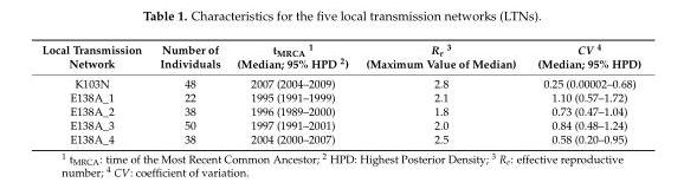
<table><thead><tr><td>Local Transmission Network</td><td>Number of Individuals</td><td>t<sub>MRCA</sub> <sup>1</sup> (Median; 95% HPD <sup>2</sup>)</td><td>R<sub>e</sub> <sup>3</sup> (Maximum Value of Median)</td><td>CV <sup>4</sup> (Median; 95% HPD)</td></tr></thead><tbody><tr><td>K103N</td><td>48</td><td>2007 (2004–2009)</td><td>2.8</td><td>0.25 (0.00002–0.68)</td></tr><tr><td>E138A_1</td><td>22</td><td>1995 (1991–1999)</td><td>2.1</td><td>1.10 (0.57–1.72)</td></tr><tr><td>E138A_2</td><td>38</td><td>1996 (1989–2000)</td><td>1.8</td><td>0.73 (0.47–1.04)</td></tr><tr><td>E138A_3</td><td>50</td><td>1997 (1991–2001)</td><td>2.0</td><td>0.84 (0.48–1.24)</td></tr><tr><td>E138A_4</td><td>38</td><td>2004 (2000–2007)</td><td>2.5</td><td>0.58 (0.20–0.95)</td></tr></tbody></table>